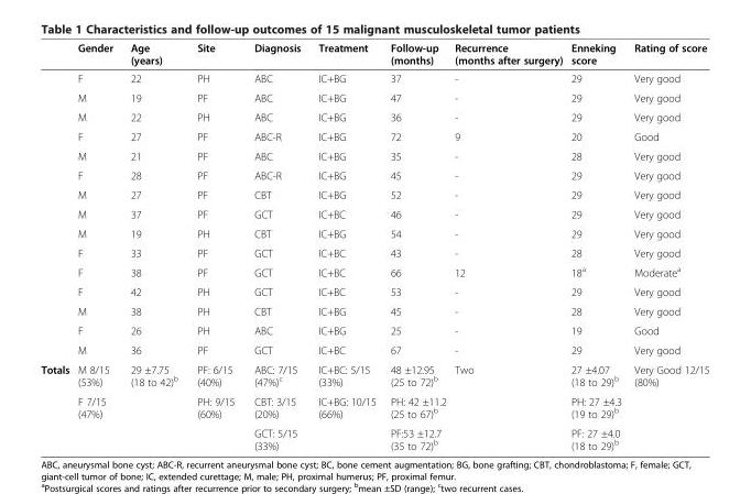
<table><thead><tr><td></td><td>Gender</td><td>Age (years)</td><td>Site</td><td>Diagnosis</td><td>Treatment</td><td>Follow-up (months)</td><td>Recurrence (months after surgery)</td><td>Enneking score</td><td>Rating of score</td></tr></thead><tbody><tr><td></td><td>F</td><td>22</td><td>PH</td><td>ABC</td><td>IC+BG</td><td>37</td><td>-</td><td>29</td><td>Very good</td></tr><tr><td></td><td>M</td><td>19</td><td>PF</td><td>ABC</td><td>IC+BG</td><td>47</td><td>-</td><td>29</td><td>Very good</td></tr><tr><td></td><td>M</td><td>22</td><td>PH</td><td>ABC</td><td>IC+BG</td><td>36</td><td>-</td><td>29</td><td>Very good</td></tr><tr><td></td><td>F</td><td>27</td><td>PF</td><td>ABC-R</td><td>IC+BG</td><td>72</td><td>9</td><td>20</td><td>Good</td></tr><tr><td></td><td>M</td><td>21</td><td>PF</td><td>ABC</td><td>IC+BG</td><td>35</td><td>-</td><td>28</td><td>Very good</td></tr><tr><td></td><td>F</td><td>28</td><td>PF</td><td>ABC-R</td><td>IC+BG</td><td>45</td><td>-</td><td>29</td><td>Very good</td></tr><tr><td></td><td>M</td><td>27</td><td>PF</td><td>CBT</td><td>IC+BG</td><td>52</td><td>-</td><td>29</td><td>Very good</td></tr><tr><td></td><td>M</td><td>37</td><td>PF</td><td>GCT</td><td>IC+BC</td><td>46</td><td>-</td><td>29</td><td>Very good</td></tr><tr><td></td><td>M</td><td>19</td><td>PH</td><td>CBT</td><td>IC+BG</td><td>54</td><td>-</td><td>29</td><td>Very good</td></tr><tr><td></td><td>F</td><td>33</td><td>PF</td><td>GCT</td><td>IC+BC</td><td>43</td><td>-</td><td>28</td><td>Very good</td></tr><tr><td></td><td>F</td><td>38</td><td>PF</td><td>GCT</td><td>IC+BC</td><td>66</td><td>12</td><td>18<sup>a</sup></td><td>Moderate<sup>a</sup></td></tr><tr><td></td><td>F</td><td>42</td><td>PH</td><td>GCT</td><td>IC+BC</td><td>53</td><td>-</td><td>29</td><td>Very good</td></tr><tr><td></td><td>M</td><td>38</td><td>PH</td><td>CBT</td><td>IC+BG</td><td>45</td><td>-</td><td>28</td><td>Very good</td></tr><tr><td></td><td>F</td><td>26</td><td>PH</td><td>ABC</td><td>IC+BG</td><td>25</td><td>-</td><td>19</td><td>Good</td></tr><tr><td></td><td>M</td><td>36</td><td>PF</td><td>GCT</td><td>IC+BC</td><td>67</td><td>-</td><td>29</td><td>Very good</td></tr><tr><td rowspan="3">Totals</td><td>M 8/15 (53%)</td><td>29 ±7.75 (18 to 42)<sup>b</sup></td><td>PF: 6/15 (40%)</td><td>ABC: 7/15 (47%)<sup>c</sup></td><td>IC+BC: 5/15 (33%)</td><td>48 ±12.95 (25 to 72)<sup>b</sup></td><td>Two</td><td>27 ±4.07 (18 to 29)<sup>b</sup></td><td>Very Good 12/15 (80%)</td></tr><tr><td>F 7/15 (47%)</td><td></td><td>PH: 9/15 (60%)</td><td>CBT: 3/15 (20%)</td><td>IC+BG: 10/15 (66%)</td><td>PH: 42 ±11.2 (25 to 67)<sup>b</sup></td><td></td><td>PH: 27 ±4.3 (19 to 29)<sup>b</sup></td><td></td></tr><tr><td></td><td></td><td></td><td>GCT: 5/15 (33%)</td><td></td><td>PF:53 ±12.7 (35 to 72)<sup>b</sup></td><td></td><td>PF: 27 ±4.0 (18 to 29)<sup>b</sup></td><td></td></tr></tbody></table>